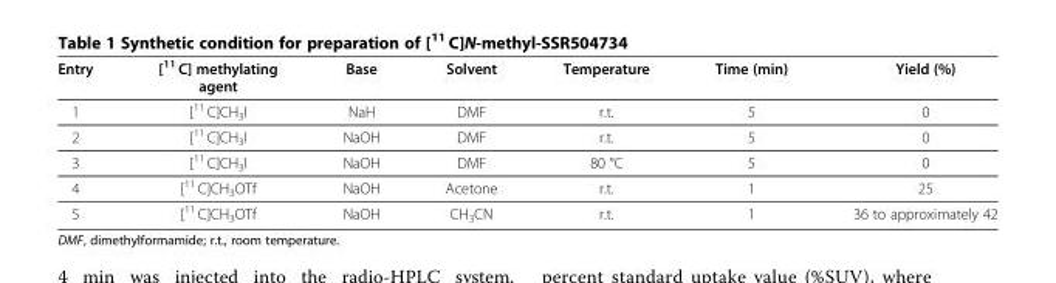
<table><thead><tr><td>Entry</td><td>[<sup>11</sup> C] methylating agent</td><td>Base</td><td>Solvent</td><td>Temperature</td><td>Time (min)</td><td>Yield (%)</td></tr></thead><tbody><tr><td>1</td><td>[<sup>11</sup> C]CH<sub>3</sub>I</td><td>NaH</td><td>DMF</td><td>r.t.</td><td>5</td><td>0</td></tr><tr><td>2</td><td>[<sup>11</sup> C]CH<sub>3</sub>I</td><td>NaOH</td><td>DMF</td><td>r.t.</td><td>5</td><td>0</td></tr><tr><td>3</td><td>[<sup>11</sup> C]CH<sub>3</sub>I</td><td>NaOH</td><td>DMF</td><td>80 °C</td><td>5</td><td>0</td></tr><tr><td>4</td><td>[<sup>11</sup> C]CH<sub>3</sub>OTf</td><td>NaOH</td><td>Acetone</td><td>r.t.</td><td>1</td><td>25</td></tr><tr><td>5</td><td>[<sup>11</sup> C]CH<sub>3</sub>OTf</td><td>NaOH</td><td>CH<sub>3</sub>CN</td><td>r.t.</td><td>1</td><td>36 to approximately 42</td></tr></tbody></table>